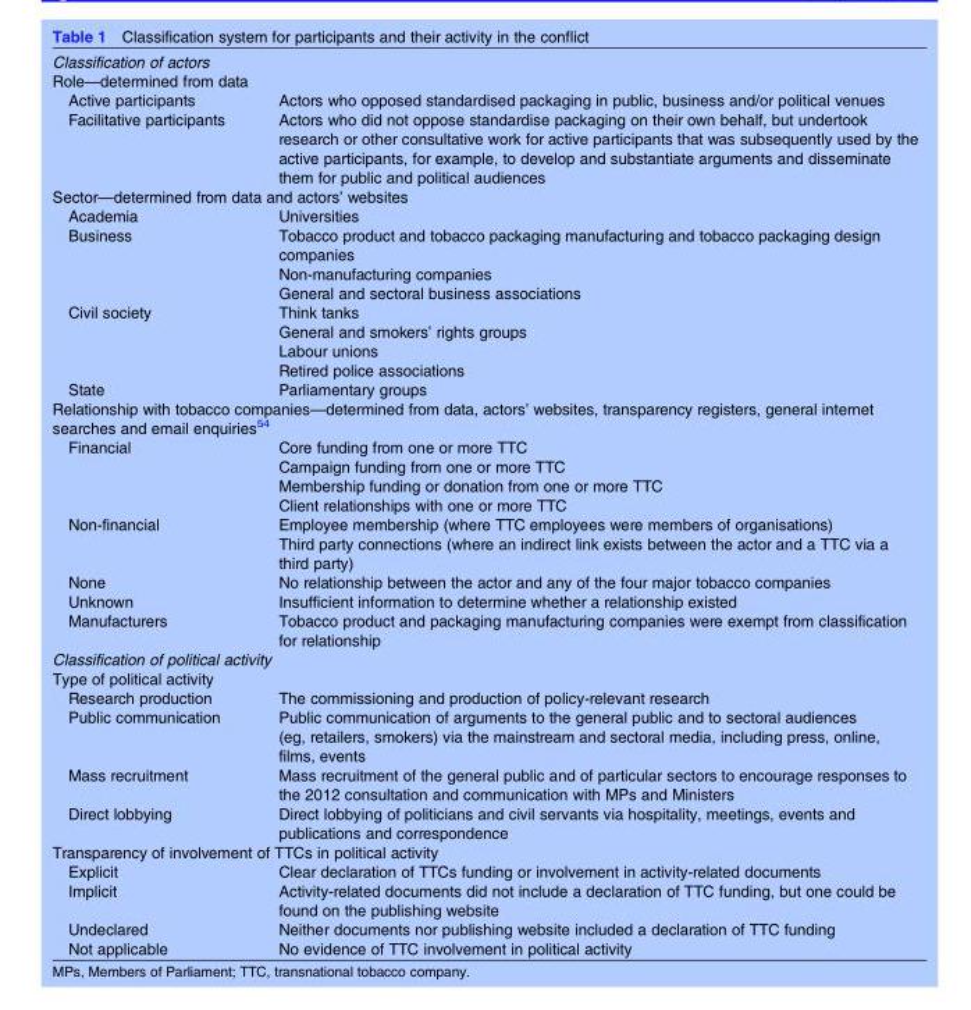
<table><tbody><tr><td colspan="2">Classification of actors</td></tr><tr><td colspan="2">Role—determined from data</td></tr><tr><td>Active participants</td><td>Actors who opposed standardised packaging in public, business and/or political venues</td></tr><tr><td>Facilitative participants</td><td>Actors who did not oppose standardise packaging on their own behalf, but undertook research or other consultative work for active participants that was subsequently used by the active participants, for example, to develop and substantiate arguments and disseminate them for public and political audiences</td></tr><tr><td colspan="2">Sector—determined from data and actors’ websites</td></tr><tr><td>Academia</td><td>Universities</td></tr><tr><td>Business</td><td>Tobacco product and tobacco packaging manufacturing and tobacco packaging design companies Non-manufacturing companies General and sectoral business associations</td></tr><tr><td>Civil society</td><td>Think tanks General and smokers’ rights groups Labour unions Retired police associations</td></tr><tr><td>State</td><td>Parliamentary groups</td></tr><tr><td colspan="2">Relationship with tobacco companies—determined from data, actors’ websites, transparency registers, general internet searches and email enquiries<sup>54</sup></td></tr><tr><td>Financial</td><td>Core funding from one or more TTC Campaign funding from one or more TTC Membership funding or donation from one or more TTC Client relationships with one or more TTC</td></tr><tr><td>Non-financial</td><td>Employee membership (where TTC employees were members of organisations) Third party connections (where an indirect link exists between the actor and a TTC via a third party)</td></tr><tr><td>None</td><td>No relationship between the actor and any of the four major tobacco companies</td></tr><tr><td>Unknown</td><td>Insufficient information to determine whether a relationship existed</td></tr><tr><td>Manufacturers</td><td>Tobacco product and packaging manufacturing companies were exempt from classification for relationship</td></tr><tr><td colspan="2">Classification of political activity</td></tr><tr><td colspan="2">Type of political activity</td></tr><tr><td>Research production</td><td>The commissioning and production of policy-relevant research</td></tr><tr><td>Public communication</td><td>Public communication of arguments to the general public and to sectoral audiences (eg, retailers, smokers) via the mainstream and sectoral media, including press, online, films, events</td></tr><tr><td>Mass recruitment</td><td>Mass recruitment of the general public and of particular sectors to encourage responses to the 2012 consultation and communication with MPs and Ministers</td></tr><tr><td>Direct lobbying</td><td>Direct lobbying of politicians and civil servants via hospitality, meetings, events and publications and correspondence</td></tr><tr><td colspan="2">Transparency of involvement of TTCs in political activity</td></tr><tr><td>Explicit</td><td>Clear declaration of TTCs funding or involvement in activity-related documents</td></tr><tr><td>Implicit</td><td>Activity-related documents did not include a declaration of TTC funding, but one could be found on the publishing website</td></tr><tr><td>Undeclared</td><td>Neither documents nor publishing website included a declaration of TTC funding</td></tr><tr><td>Not applicable</td><td>No evidence of TTC involvement in political activity</td></tr></tbody></table>